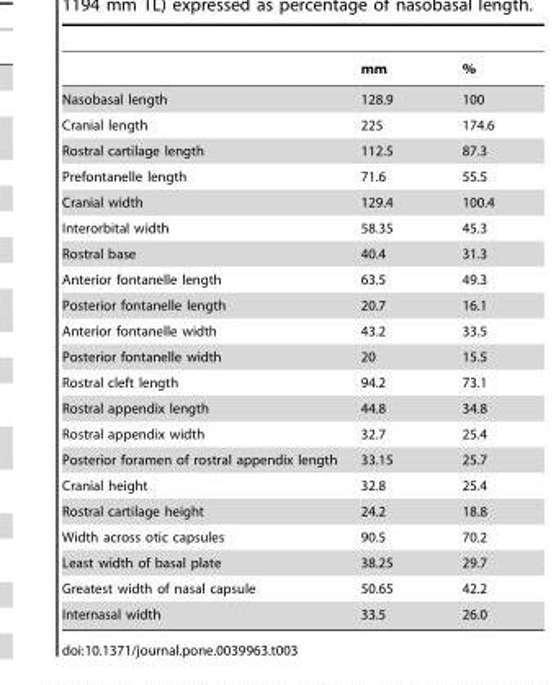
<table><thead><tr><td></td><td>mm</td><td>%</td></tr></thead><tbody><tr><td>Nasobasal length</td><td>128.9</td><td>100</td></tr><tr><td>Cranial length</td><td>225</td><td>174.6</td></tr><tr><td>Rostral cartilage length</td><td>112.5</td><td>87.3</td></tr><tr><td>Prefontanelle length</td><td>71.6</td><td>55.5</td></tr><tr><td>Cranial width</td><td>129.4</td><td>100.4</td></tr><tr><td>Interorbital width</td><td>58.35</td><td>45.3</td></tr><tr><td>Rostral base</td><td>40.4</td><td>31.3</td></tr><tr><td>Anterior fontanelle length</td><td>63.5</td><td>49.3</td></tr><tr><td>Posterior fontanelle length</td><td>20.7</td><td>16.1</td></tr><tr><td>Anterior fontanelle width</td><td>43.2</td><td>33.5</td></tr><tr><td>Posterior fontanelle width</td><td>20</td><td>15.5</td></tr><tr><td>Rostral cleft length</td><td>94.2</td><td>73.1</td></tr><tr><td>Rostral appendix length</td><td>44.8</td><td>34.8</td></tr><tr><td>Rostral appendix width</td><td>32.7</td><td>25.4</td></tr><tr><td>Posterior foramen of rostral appendix length</td><td>33.15</td><td>25.7</td></tr><tr><td>Cranial height</td><td>32.8</td><td>25.4</td></tr><tr><td>Rostral cartilage height</td><td>24.2</td><td>18.8</td></tr><tr><td>Width across otic capsules</td><td>90.5</td><td>70.2</td></tr><tr><td>Least width of basal plate</td><td>38.25</td><td>29.7</td></tr><tr><td>Greatest width of nasal capsule</td><td>50.65</td><td>42.2</td></tr><tr><td>Internasal width</td><td>33.5</td><td>26.0</td></tr></tbody></table>